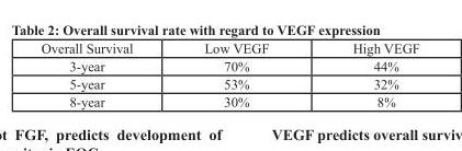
<table><thead><tr><td>Overall Survival</td><td>Low VEGF</td><td>High VEGF</td></tr></thead><tbody><tr><td>3-year</td><td>70%</td><td>44%</td></tr><tr><td>5-year</td><td>53%</td><td>32%</td></tr><tr><td>8-year</td><td>30%</td><td>8%</td></tr></tbody></table>